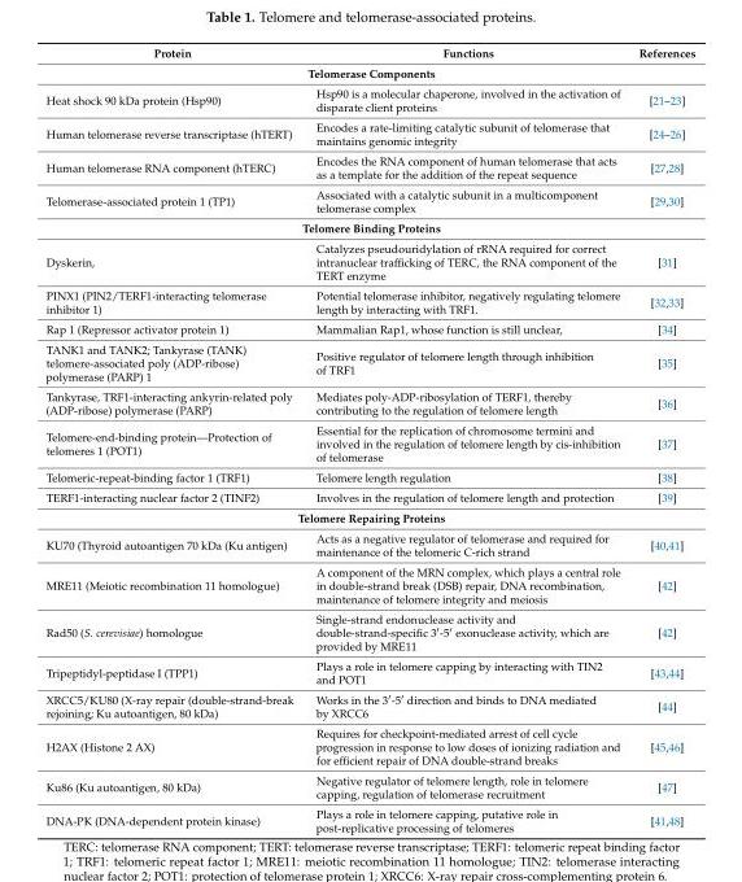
<table><thead><tr><td>Protein</td><td>Functions</td><td>References</td></tr></thead><tbody><tr><td colspan="3">Telomerase Components</td></tr><tr><td>Heat shock 90 kDa protein (Hsp90)</td><td>Hsp90 is a molecular chaperone, involved in the activation of disparate client proteins</td><td>[21–23]</td></tr><tr><td>Human telomerase reverse transcriptase (hTERT)</td><td>Encodes a rate-limiting catalytic subunit of telomerase that maintains genomic integrity</td><td>[24–26]</td></tr><tr><td>Human telomerase RNA component (hTERC)</td><td>Encodes the RNA component of human telomerase that acts as a template for the addition of the repeat sequence</td><td>[27,28]</td></tr><tr><td>Telomerase-associated protein 1 (TP1)</td><td>Associated with a catalytic subunit in a multicomponent telomerase complex</td><td>[29,30]</td></tr><tr><td colspan="3">Telomere Binding Proteins</td></tr><tr><td>Dyskerin,</td><td>Catalyzes pseudouridylation of rRNA required for correct intranuclear trafficking of TERC, the RNA component of the TERT enzyme</td><td>[31]</td></tr><tr><td>PINX1 (PIN2/TERF1-interacting telomerase inhibitor 1)</td><td>Potential telomerase inhibitor, negatively regulating telomere length by interacting with TRF1.</td><td>[32,33]</td></tr><tr><td>Rap 1 (Repressor activator protein 1)</td><td>Mammalian Rap1, whose function is still unclear,</td><td>[34]</td></tr><tr><td>TANK1 and TANK2; Tankyrase (TANK) telomere-associated poly (ADP-ribose) polymerase (PARP) 1</td><td>Positive regulator of telomere length through inhibition of TRF1</td><td>[35]</td></tr><tr><td>Tankyrase, TRF1-interacting ankyrin-related poly (ADP-ribose) polymerase (PARP)</td><td>Mediates poly-ADP-ribosylation of TERF1, thereby contributing to the regulation of telomere length</td><td>[36]</td></tr><tr><td>Telomere-end-binding protein—Protection of telomeres 1 (POT1)</td><td>Essential for the replication of chromosome termini and involved in the regulation of telomere length by cis-inhibition of telomerase</td><td>[37]</td></tr><tr><td>Telomeric-repeat-binding factor 1 (TRF1)</td><td>Telomere length regulation</td><td>[38]</td></tr><tr><td>TERF1-interacting nuclear factor 2 (TINF2)</td><td>Involves in the regulation of telomere length and protection</td><td>[39]</td></tr><tr><td colspan="3">Telomere Repairing Proteins</td></tr><tr><td>KU70 (Thyroid autoantigen 70 kDa (Ku antigen)</td><td>Acts as a negative regulator of telomerase and required for maintenance of the telomeric C-rich strand</td><td>[40,41]</td></tr><tr><td>MRE11 (Meiotic recombination 11 homologue)</td><td>A component of the MRN complex, which plays a central role in double-strand break (DSB) repair, DNA recombination, maintenance of telomere integrity and meiosis</td><td>[42]</td></tr><tr><td>Rad50 (S. cerevisiae) homologue</td><td>Single-strand endonuclease activity and double-strand-specific 3′-5′ exonuclease activity, which are provided by MRE11</td><td>[42]</td></tr><tr><td>Tripeptidyl-peptidase I (TPP1)</td><td>Plays a role in telomere capping by interacting with TIN2 and POT1</td><td>[43,44]</td></tr><tr><td>XRCC5/KU80 (X-ray repair (double-strand-break rejoining; Ku autoantigen, 80 kDa)</td><td>Works in the 3′-5′ direction and binds to DNA mediated by XRCC6</td><td>[44]</td></tr><tr><td>H2AX (Histone 2 AX)</td><td>Requires for checkpoint-mediated arrest of cell cycle progression in response to low doses of ionizing radiation and for efficient repair of DNA double-strand breaks</td><td>[45,46]</td></tr><tr><td>Ku86 (Ku autoantigen, 80 kDa)</td><td>Negative regulator of telomere length, role in telomere capping, regulation of telomerase recruitment</td><td>[47]</td></tr><tr><td>DNA-PK (DNA-dependent protein kinase)</td><td>Plays a role in telomere capping, putative role in post-replicative processing of telomeres</td><td>[41,48]</td></tr></tbody></table>